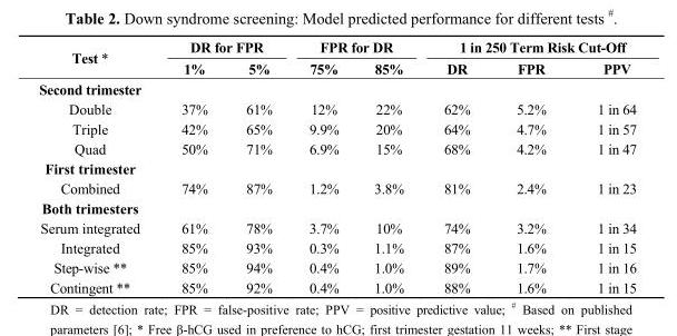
<table><thead><tr><td rowspan="2">Test *</td><td colspan="2">DR for FPR</td><td colspan="2">FPR for DR</td><td colspan="3">1 in 250 Term Risk Cut-Off</td></tr><tr><td>1%</td><td>5%</td><td>75%</td><td>85%</td><td>DR</td><td>FPR</td><td>PPV</td></tr></thead><tbody><tr><td colspan="8">Second trimester</td></tr><tr><td>Double</td><td>37%</td><td>61%</td><td>12%</td><td>22%</td><td>62%</td><td>5.2%</td><td>1 in 64</td></tr><tr><td>Triple</td><td>42%</td><td>65%</td><td>9.9%</td><td>20%</td><td>64%</td><td>4.7%</td><td>1 in 57</td></tr><tr><td>Quad</td><td>50%</td><td>71%</td><td>6.9%</td><td>15%</td><td>68%</td><td>4.2%</td><td>1 in 47</td></tr><tr><td colspan="8">First trimester</td></tr><tr><td>Combined</td><td>74%</td><td>87%</td><td>1.2%</td><td>3.8%</td><td>81%</td><td>2.4%</td><td>1 in 23</td></tr><tr><td colspan="8">Both trimesters</td></tr><tr><td>Serum integrated</td><td>61%</td><td>78%</td><td>3.7%</td><td>10%</td><td>74%</td><td>3.2%</td><td>1 in 34</td></tr><tr><td>Integrated</td><td>85%</td><td>93%</td><td>0.3%</td><td>1.1%</td><td>87%</td><td>1.6%</td><td>1 in 15</td></tr><tr><td>Step-wise **</td><td>85%</td><td>94%</td><td>0.4%</td><td>1.0%</td><td>89%</td><td>1.7%</td><td>1 in 16</td></tr><tr><td>Contingent **</td><td>85%</td><td>92%</td><td>0.4%</td><td>1.0%</td><td>88%</td><td>1.6%</td><td>1 in 15</td></tr></tbody></table>